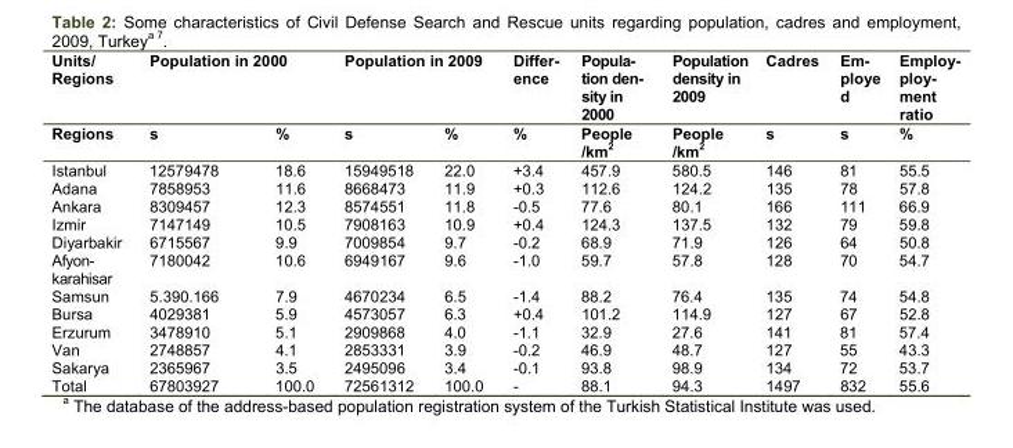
<table><thead><tr><td rowspan="2">Units/ Regions Regions</td><td colspan="2">Population in 2000</td><td colspan="2">Population in 2009</td><td rowspan="2">Differ- ence %</td><td rowspan="2">Popula- tion den- sity in 2000 People /km2</td><td rowspan="2">Population density in 2009 People /km<sup>2</sup></td><td rowspan="2">Cadres s</td><td rowspan="2">Em- ploye d s</td><td rowspan="2">Employ- ploy- ment ratio %</td></tr><tr><td>s</td><td>%</td><td>s</td><td>%</td></tr></thead><tbody><tr><td>Istanbul</td><td>12579478</td><td>18.6</td><td>15949518</td><td>22.0</td><td>+3.4</td><td>457.9</td><td>580.5</td><td>146</td><td>81</td><td>55.5</td></tr><tr><td>Adana</td><td>7858953</td><td>11.6</td><td>8668473</td><td>11.9</td><td>+0.3</td><td>112.6</td><td>124.2</td><td>135</td><td>78</td><td>57.8</td></tr><tr><td>Ankara</td><td>8309457</td><td>12.3</td><td>8574551</td><td>11.8</td><td>-0.5</td><td>77.6</td><td>80.1</td><td>166</td><td>111</td><td>66.9</td></tr><tr><td>Izmir</td><td>7147149</td><td>10.5</td><td>7908163</td><td>10.9</td><td>+0.4</td><td>124.3</td><td>137.5</td><td>132</td><td>79</td><td>59.8</td></tr><tr><td>Diyarbakir</td><td>6715567</td><td>9.9</td><td>7009854</td><td>9.7</td><td>-0.2</td><td>68.9</td><td>71.9</td><td>126</td><td>64</td><td>50.8</td></tr><tr><td>Afyon- karahisar</td><td>7180042</td><td>10.6</td><td>6949167</td><td>9.6</td><td>-1.0</td><td>59.7</td><td>57.8</td><td>128</td><td>70</td><td>54.7</td></tr><tr><td>Samsun</td><td>5.390.166</td><td>7.9</td><td>4670234</td><td>6.5</td><td>-1.4</td><td>88.2</td><td>76.4</td><td>135</td><td>74</td><td>54.8</td></tr><tr><td>Bursa</td><td>4029381</td><td>5.9</td><td>4573057</td><td>6.3</td><td>+0.4</td><td>101.2</td><td>114.9</td><td>127</td><td>67</td><td>52.8</td></tr><tr><td>Erzurum</td><td>3478910</td><td>5.1</td><td>2909868</td><td>4.0</td><td>-1.1</td><td>32.9</td><td>27.6</td><td>141</td><td>81</td><td>57.4</td></tr><tr><td>Van</td><td>2748857</td><td>4.1</td><td>2853331</td><td>3.9</td><td>-0.2</td><td>46.9</td><td>48.7</td><td>127</td><td>55</td><td>43.3</td></tr><tr><td>Sakarya</td><td>2365967</td><td>3.5</td><td>2495096</td><td>3.4</td><td>-0.1</td><td>93.8</td><td>98.9</td><td>134</td><td>72</td><td>53.7</td></tr><tr><td>Total</td><td>67803927</td><td>100.0</td><td>72561312</td><td>100.0</td><td>-</td><td>88.1</td><td>94.3</td><td>1497</td><td>832</td><td>55.6</td></tr></tbody></table>